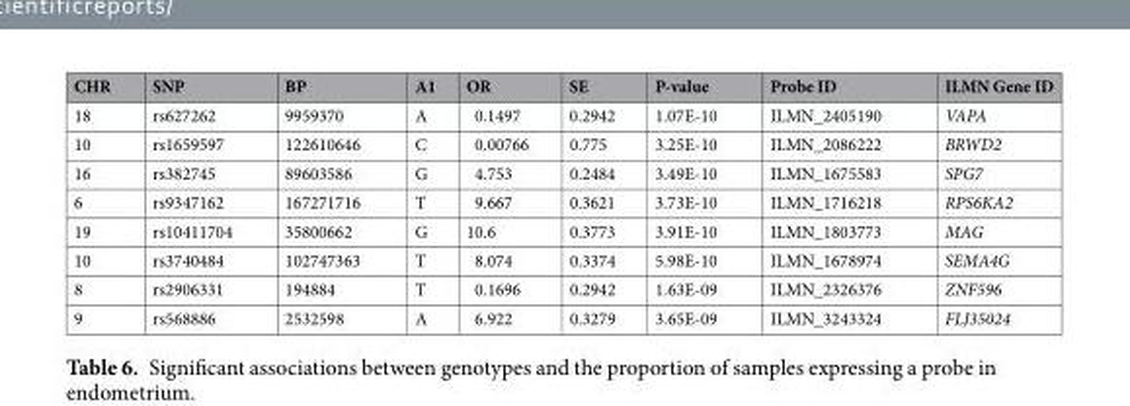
<table><thead><tr><td>CHR</td><td>SNP</td><td>BP</td><td>A1</td><td>OR</td><td>SE</td><td>P-value</td><td>Probe ID</td><td>ILMN Gene ID</td></tr></thead><tbody><tr><td>18</td><td>rs627262</td><td>9959370</td><td>A</td><td>0.1497</td><td>0.2942</td><td>1.07E-10</td><td>ILMN_2405190</td><td>VAPA</td></tr><tr><td>10</td><td>rs1659597</td><td>122610646</td><td>C</td><td>0.00766</td><td>0.775</td><td>3.25E-10</td><td>ILMN_2086222</td><td>BRWD2</td></tr><tr><td>16</td><td>rs382745</td><td>89603586</td><td>G</td><td>4.753</td><td>0.2484</td><td>3.49E-10</td><td>ILMN_1675583</td><td>SPG7</td></tr><tr><td>6</td><td>rs9347162</td><td>167271716</td><td>T</td><td>9.667</td><td>0.3621</td><td>3.73E-10</td><td>ILMN_1716218</td><td>RPS6KA2</td></tr><tr><td>19</td><td>rs10411704</td><td>35800662</td><td>G</td><td>10.6</td><td>0.3773</td><td>3.91E-10</td><td>ILMN_1803773</td><td>MAG</td></tr><tr><td>10</td><td>rs3740484</td><td>102747363</td><td>T</td><td>8.074</td><td>0.3374</td><td>5.98E-10</td><td>ILMN_1678974</td><td>SEMA4G</td></tr><tr><td>8</td><td>rs2906331</td><td>194884</td><td>T</td><td>0.1696</td><td>0.2942</td><td>1.63E-09</td><td>ILMN_2326376</td><td>ZNF596</td></tr><tr><td>9</td><td>rs568886</td><td>2532598</td><td>A</td><td>6.922</td><td>0.3279</td><td>3.65E-09</td><td>ILMN_3243324</td><td>FLJ35024</td></tr></tbody></table>